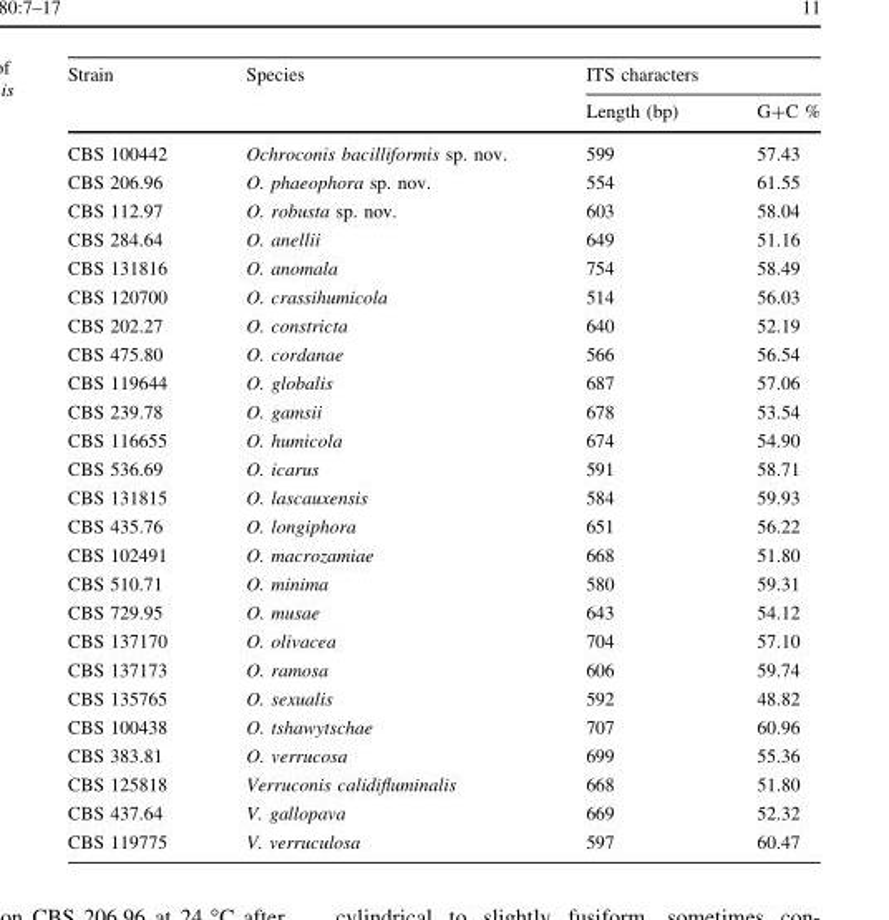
<table><thead><tr><td rowspan="2">Strain</td><td rowspan="2">Species</td><td colspan="2">ITS characters</td></tr><tr><td>Length (bp)</td><td>G+C %</td></tr></thead><tbody><tr><td>CBS 100442</td><td>Ochroconis bacilliformis sp. nov.</td><td>599</td><td>57.43</td></tr><tr><td>CBS 206.96</td><td>O. phaeophora sp. nov.</td><td>554</td><td>61.55</td></tr><tr><td>CBS 112.97</td><td>O. robusta sp. nov.</td><td>603</td><td>58.04</td></tr><tr><td>CBS 284.64</td><td>O. anellii</td><td>649</td><td>51.16</td></tr><tr><td>CBS 131816</td><td>O. anomala</td><td>754</td><td>58.49</td></tr><tr><td>CBS 120700</td><td>O. crassihumicola</td><td>514</td><td>56.03</td></tr><tr><td>CBS 202.27</td><td>O. constricta</td><td>640</td><td>52.19</td></tr><tr><td>CBS 475.80</td><td>O. cordanae</td><td>566</td><td>56.54</td></tr><tr><td>CBS 119644</td><td>O. globalis</td><td>687</td><td>57.06</td></tr><tr><td>CBS 239.78</td><td>O. gamsii</td><td>678</td><td>53.54</td></tr><tr><td>CBS 116655</td><td>O. humicola</td><td>674</td><td>54.90</td></tr><tr><td>CBS 536.69</td><td>O. icarus</td><td>591</td><td>58.71</td></tr><tr><td>CBS 131815</td><td>O. lascauxensis</td><td>584</td><td>59.93</td></tr><tr><td>CBS 435.76</td><td>O. longiphora</td><td>651</td><td>56.22</td></tr><tr><td>CBS 102491</td><td>O. macrozamiae</td><td>668</td><td>51.80</td></tr><tr><td>CBS 510.71</td><td>O. minima</td><td>580</td><td>59.31</td></tr><tr><td>CBS 729.95</td><td>O. musae</td><td>643</td><td>54.12</td></tr><tr><td>CBS 137170</td><td>O. olivacea</td><td>704</td><td>57.10</td></tr><tr><td>CBS 137173</td><td>O. ramosa</td><td>606</td><td>59.74</td></tr><tr><td>CBS 135765</td><td>O. sexualis</td><td>592</td><td>48.82</td></tr><tr><td>CBS 100438</td><td>O. tshawytschae</td><td>707</td><td>60.96</td></tr><tr><td>CBS 383.81</td><td>O. verrucosa</td><td>699</td><td>55.36</td></tr><tr><td>CBS 125818</td><td>Verruconis calidifluminalis</td><td>668</td><td>51.80</td></tr><tr><td>CBS 437.64</td><td>V. gallopava</td><td>669</td><td>52.32</td></tr><tr><td>CBS 119775</td><td>V. verruculosa</td><td>597</td><td>60.47</td></tr></tbody></table>